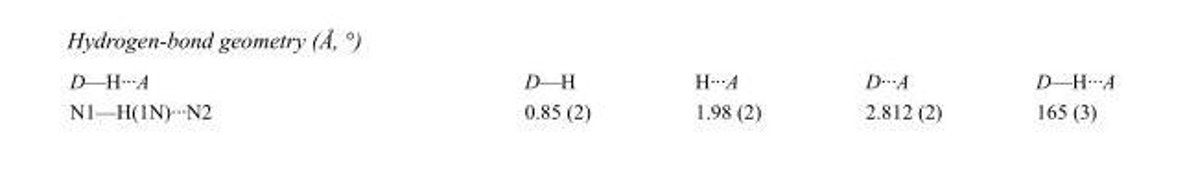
<table><tbody><tr><td>D—H···A</td><td>D—H</td><td>H···A</td><td>D···A</td><td>D—H···A</td></tr><tr><td>N1—H(1N)···N2</td><td>0.85 (2)</td><td>1.98 (2)</td><td>2.812 (2)</td><td>165 (3)</td></tr></tbody></table>